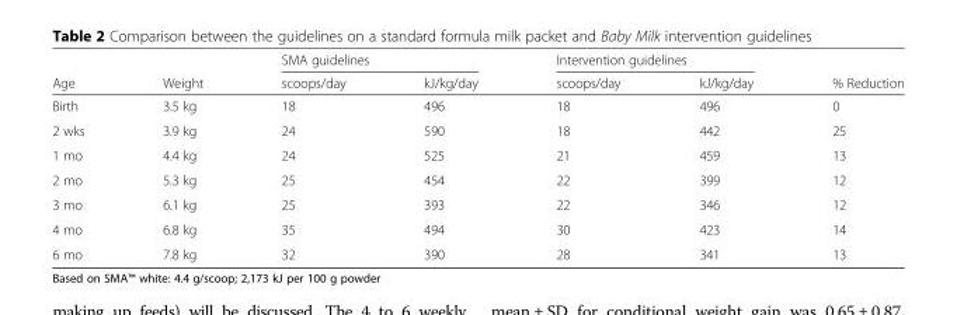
<table><thead><tr><td rowspan="2">Age</td><td rowspan="2">Weight</td><td colspan="2">SMA guidelines</td><td colspan="2">Intervention guidelines</td><td rowspan="2">% Reduction</td></tr><tr><td>scoops/day</td><td>kJ/kg/day</td><td>scoops/day</td><td>kJ/kg/day</td></tr></thead><tbody><tr><td>Birth</td><td>3.5 kg</td><td>18</td><td>496</td><td>18</td><td>496</td><td>0</td></tr><tr><td>2 wks</td><td>3.9 kg</td><td>24</td><td>590</td><td>18</td><td>442</td><td>25</td></tr><tr><td>1 mo</td><td>4.4 kg</td><td>24</td><td>525</td><td>21</td><td>459</td><td>13</td></tr><tr><td>2 mo</td><td>5.3 kg</td><td>25</td><td>454</td><td>22</td><td>399</td><td>12</td></tr><tr><td>3 mo</td><td>6.1 kg</td><td>25</td><td>393</td><td>22</td><td>346</td><td>12</td></tr><tr><td>4 mo</td><td>6.8 kg</td><td>35</td><td>494</td><td>30</td><td>423</td><td>14</td></tr><tr><td>6 mo</td><td>7.8 kg</td><td>32</td><td>390</td><td>28</td><td>341</td><td>13</td></tr></tbody></table>